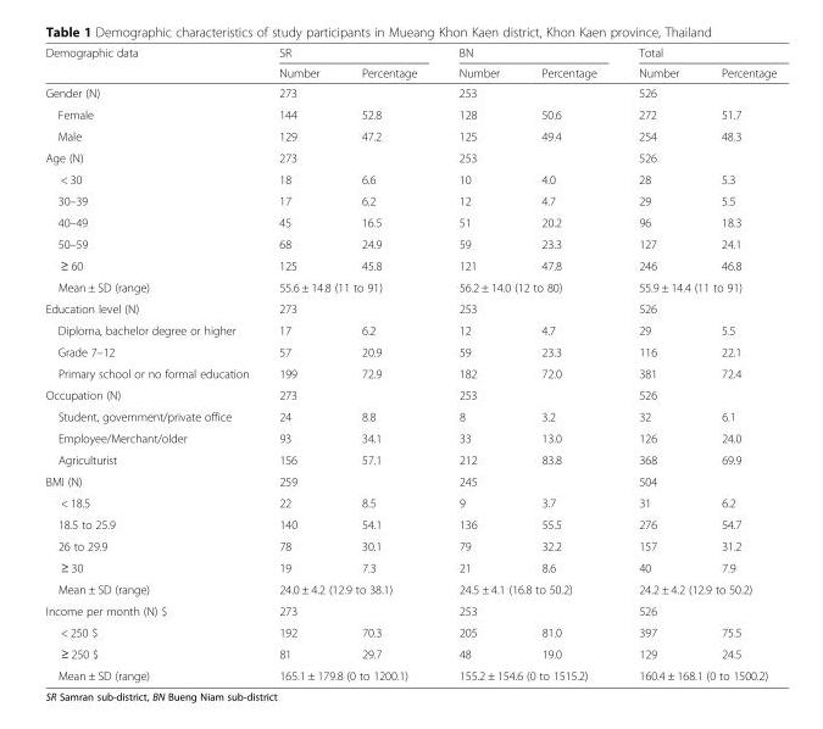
<table><thead><tr><td rowspan="2">Demographic data</td><td colspan="2">SR</td><td colspan="2">BN</td><td colspan="2">Total</td></tr><tr><td>Number</td><td>Percentage</td><td>Number</td><td>Percentage</td><td>Number</td><td>Percentage</td></tr></thead><tbody><tr><td>Gender (N)</td><td>273</td><td></td><td>253</td><td></td><td>526</td><td></td></tr><tr><td>Female</td><td>144</td><td>52.8</td><td>128</td><td>50.6</td><td>272</td><td>51.7</td></tr><tr><td>Male</td><td>129</td><td>47.2</td><td>125</td><td>49.4</td><td>254</td><td>48.3</td></tr><tr><td>Age (N)</td><td>273</td><td></td><td>253</td><td></td><td>526</td><td></td></tr><tr><td>&lt; 30</td><td>18</td><td>6.6</td><td>10</td><td>4.0</td><td>28</td><td>5.3</td></tr><tr><td>30–39</td><td>17</td><td>6.2</td><td>12</td><td>4.7</td><td>29</td><td>5.5</td></tr><tr><td>40–49</td><td>45</td><td>16.5</td><td>51</td><td>20.2</td><td>96</td><td>18.3</td></tr><tr><td>50–59</td><td>68</td><td>24.9</td><td>59</td><td>23.3</td><td>127</td><td>24.1</td></tr><tr><td>≥ 60</td><td>125</td><td>45.8</td><td>121</td><td>47.8</td><td>246</td><td>46.8</td></tr><tr><td>Mean ± SD (range)</td><td colspan="2">55.6 ± 14.8 (11 to 91)</td><td colspan="2">56.2 ± 14.0 (12 to 80)</td><td colspan="2">55.9 ± 14.4 (11 to 91)</td></tr><tr><td>Education level (N)</td><td>273</td><td></td><td>253</td><td></td><td>526</td><td></td></tr><tr><td>Diploma, bachelor degree or higher</td><td>17</td><td>6.2</td><td>12</td><td>4.7</td><td>29</td><td>5.5</td></tr><tr><td>Grade 7–12</td><td>57</td><td>20.9</td><td>59</td><td>23.3</td><td>116</td><td>22.1</td></tr><tr><td>Primary school or no formal education</td><td>199</td><td>72.9</td><td>182</td><td>72.0</td><td>381</td><td>72.4</td></tr><tr><td>Occupation (N)</td><td>273</td><td></td><td>253</td><td></td><td>526</td><td></td></tr><tr><td>Student, government/private office</td><td>24</td><td>8.8</td><td>8</td><td>3.2</td><td>32</td><td>6.1</td></tr><tr><td>Employee/Merchant/older</td><td>93</td><td>34.1</td><td>33</td><td>13.0</td><td>126</td><td>24.0</td></tr><tr><td>Agriculturist</td><td>156</td><td>57.1</td><td>212</td><td>83.8</td><td>368</td><td>69.9</td></tr><tr><td>BMI (N)</td><td>259</td><td></td><td>245</td><td></td><td>504</td><td></td></tr><tr><td>&lt; 18.5</td><td>22</td><td>8.5</td><td>9</td><td>3.7</td><td>31</td><td>6.2</td></tr><tr><td>18.5 to 25.9</td><td>140</td><td>54.1</td><td>136</td><td>55.5</td><td>276</td><td>54.7</td></tr><tr><td>26 to 29.9</td><td>78</td><td>30.1</td><td>79</td><td>32.2</td><td>157</td><td>31.2</td></tr><tr><td>≥ 30</td><td>19</td><td>7.3</td><td>21</td><td>8.6</td><td>40</td><td>7.9</td></tr><tr><td>Mean ± SD (range)</td><td colspan="2">24.0 ± 4.2 (12.9 to 38.1)</td><td colspan="2">24.5 ± 4.1 (16.8 to 50.2)</td><td colspan="2">24.2 ± 4.2 (12.9 to 50.2)</td></tr><tr><td>Income per month (N) $</td><td>273</td><td></td><td>253</td><td></td><td>526</td><td></td></tr><tr><td>&lt; 250 $</td><td>192</td><td>70.3</td><td>205</td><td>81.0</td><td>397</td><td>75.5</td></tr><tr><td>≥ 250 $</td><td>81</td><td>29.7</td><td>48</td><td>19.0</td><td>129</td><td>24.5</td></tr><tr><td>Mean ± SD (range)</td><td colspan="2">165.1 ± 179.8 (0 to 1200.1)</td><td colspan="2">155.2 ± 154.6 (0 to 1515.2)</td><td colspan="2">160.4 ± 168.1 (0 to 1500.2)</td></tr></tbody></table>